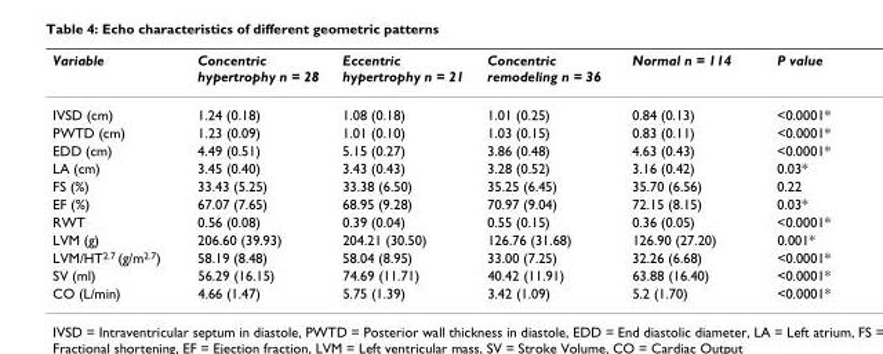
<table><thead><tr><td>Variable</td><td>Concentric hypertrophy n = 28</td><td>Eccentric hypertrophy n = 21</td><td>Concentric remodeling n = 36</td><td>Normal n = 114</td><td>P value</td></tr></thead><tbody><tr><td>IVSD (cm)</td><td>1.24 (0.18)</td><td>1.08 (0.18)</td><td>1.01 (0.25)</td><td>0.84 (0.13)</td><td>&lt;0.0001*</td></tr><tr><td>PWTD (cm)</td><td>1.23 (0.09)</td><td>1.01 (0.10)</td><td>1.03 (0.15)</td><td>0.83 (0.11)</td><td>&lt;0.0001*</td></tr><tr><td>EDD (cm)</td><td>4.49 (0.51)</td><td>5.15 (0.27)</td><td>3.86 (0.48)</td><td>4.63 (0.43)</td><td>&lt;0.0001*</td></tr><tr><td>LA (cm)</td><td>3.45 (0.40)</td><td>3.43 (0.43)</td><td>3.28 (0.52)</td><td>3.16 (0.42)</td><td>0.03*</td></tr><tr><td>FS (%)</td><td>33.43 (5.25)</td><td>33.38 (6.50)</td><td>35.25 (6.45)</td><td>35.70 (6.56)</td><td>0.22</td></tr><tr><td>EF (%)</td><td>67.07 (7.65)</td><td>68.95 (9.28)</td><td>70.97 (9.04)</td><td>72.15 (8.15)</td><td>0.03*</td></tr><tr><td>RWT</td><td>0.56 (0.08)</td><td>0.39 (0.04)</td><td>0.55 (0.15)</td><td>0.36 (0.05)</td><td>&lt;0.0001*</td></tr><tr><td>LVM (g)</td><td>206.60 (39.93)</td><td>204.21 (30.50)</td><td>126.76 (31.68)</td><td>126.90 (27.20)</td><td>0.001*</td></tr><tr><td>LVM/HT<sup>2.7</sup> (g/m<sup>2.7</sup>)</td><td>58.19 (8.48)</td><td>58.04 (8.95)</td><td>33.00 (7.25)</td><td>32.26 (6.68)</td><td>&lt;0.0001*</td></tr><tr><td>SV (ml)</td><td>56.29 (16.15)</td><td>74.69 (11.71)</td><td>40.42 (11.91)</td><td>63.88 (16.40)</td><td>&lt;0.0001*</td></tr><tr><td>CO (L/min)</td><td>4.66 (1.47)</td><td>5.75 (1.39)</td><td>3.42 (1.09)</td><td>5.2 (1.70)</td><td>&lt;0.0001*</td></tr></tbody></table>